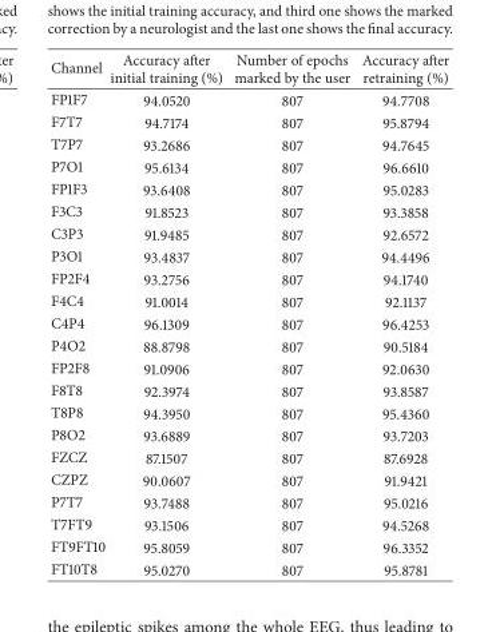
<table><thead><tr><td>Channel</td><td>Accuracy after initial training (%)</td><td>Number of epochs marked by the user</td><td>Accuracy after retraining (%)</td></tr></thead><tbody><tr><td>FP1F7</td><td>94.0520</td><td>807</td><td>94.7708</td></tr><tr><td>F7T7</td><td>94.7174</td><td>807</td><td>95.8794</td></tr><tr><td>T7P7</td><td>93.2686</td><td>807</td><td>94.7645</td></tr><tr><td>P7O1</td><td>95.6134</td><td>807</td><td>96.6610</td></tr><tr><td>FP1F3</td><td>93.6408</td><td>807</td><td>95.0283</td></tr><tr><td>F3C3</td><td>91.8523</td><td>807</td><td>93.3858</td></tr><tr><td>C3P3</td><td>91.9485</td><td>807</td><td>92.6572</td></tr><tr><td>P3O1</td><td>93.4837</td><td>807</td><td>94.4496</td></tr><tr><td>FP2F4</td><td>93.2756</td><td>807</td><td>94.1740</td></tr><tr><td>F4C4</td><td>91.0014</td><td>807</td><td>92.1137</td></tr><tr><td>C4P4</td><td>96.1309</td><td>807</td><td>96.4253</td></tr><tr><td>P4O2</td><td>88.8798</td><td>807</td><td>90.5184</td></tr><tr><td>FP2F8</td><td>91.0906</td><td>807</td><td>92.0630</td></tr><tr><td>F8T8</td><td>92.3974</td><td>807</td><td>93.8587</td></tr><tr><td>T8P8</td><td>94.3950</td><td>807</td><td>95.4360</td></tr><tr><td>P8O2</td><td>93.6889</td><td>807</td><td>93.7203</td></tr><tr><td>FZCZ</td><td>87.1507</td><td>807</td><td>87.6928</td></tr><tr><td>CZPZ</td><td>90.0607</td><td>807</td><td>91.9421</td></tr><tr><td>P7T7</td><td>93.7488</td><td>807</td><td>95.0216</td></tr><tr><td>T7FT9</td><td>93.1506</td><td>807</td><td>94.5268</td></tr><tr><td>FT9FT10</td><td>95.8059</td><td>807</td><td>96.3352</td></tr><tr><td>FT10T8</td><td>95.0270</td><td>807</td><td>95.8781</td></tr></tbody></table>